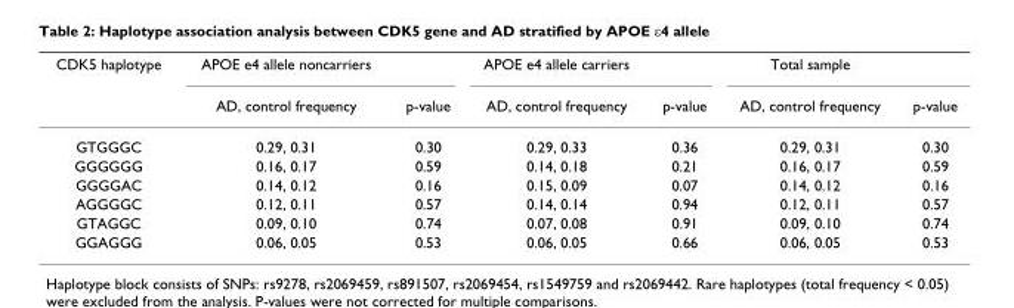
<table><thead><tr><td rowspan="2">CDK5 haplotype</td><td rowspan="2">APOE e4 allele noncarriers AD, control frequency</td><td rowspan="2">p-value</td><td rowspan="2">APOE e4 allele carriers AD, control frequency</td><td rowspan="2">p-value</td><td rowspan="2">Total sample AD, control frequency</td><td rowspan="2">p-value</td></tr><tr></tr></thead><tbody><tr><td>GTGGGC</td><td>0.29, 0.31</td><td>0.30</td><td>0.29, 0.33</td><td>0.36</td><td>0.29, 0.31</td><td>0.30</td></tr><tr><td>GGGGGG</td><td>0.16, 0.17</td><td>0.59</td><td>0.14, 0.18</td><td>0.21</td><td>0.16, 0.17</td><td>0.59</td></tr><tr><td>GGGGAC</td><td>0.14, 0.12</td><td>0.16</td><td>0.15, 0.09</td><td>0.07</td><td>0.14, 0.12</td><td>0.16</td></tr><tr><td>AGGGGC</td><td>0.12, 0.11</td><td>0.57</td><td>0.14, 0.14</td><td>0.94</td><td>0.12, 0.11</td><td>0.57</td></tr><tr><td>GTAGGC</td><td>0.09, 0.10</td><td>0.74</td><td>0.07, 0.08</td><td>0.91</td><td>0.09, 0.10</td><td>0.74</td></tr><tr><td>GGAGGG</td><td>0.06, 0.05</td><td>0.53</td><td>0.06, 0.05</td><td>0.66</td><td>0.06, 0.05</td><td>0.53</td></tr></tbody></table>